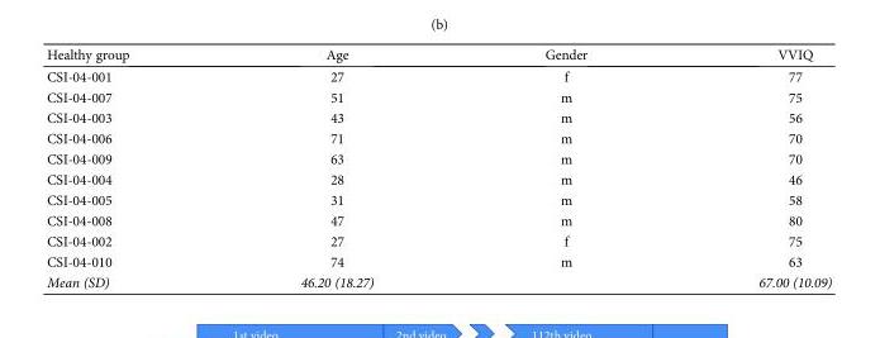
<table><thead><tr><td>Healthy group</td><td>Age</td><td>Gender</td><td>VVIQ</td></tr></thead><tbody><tr><td>CSI-04-001</td><td>27</td><td>f</td><td>77</td></tr><tr><td>CSI-04-007</td><td>51</td><td>m</td><td>75</td></tr><tr><td>CSI-04-003</td><td>43</td><td>m</td><td>56</td></tr><tr><td>CSI-04-006</td><td>71</td><td>m</td><td>70</td></tr><tr><td>CSI-04-009</td><td>63</td><td>m</td><td>70</td></tr><tr><td>CSI-04-004</td><td>28</td><td>m</td><td>46</td></tr><tr><td>CSI-04-005</td><td>31</td><td>m</td><td>58</td></tr><tr><td>CSI-04-008</td><td>47</td><td>m</td><td>80</td></tr><tr><td>CSI-04-002</td><td>27</td><td>f</td><td>75</td></tr><tr><td>CSI-04-010</td><td>74</td><td>m</td><td>63</td></tr><tr><td>Mean (SD)</td><td>46.20 (18.27)</td><td></td><td>67.00 (10.09)</td></tr></tbody></table>